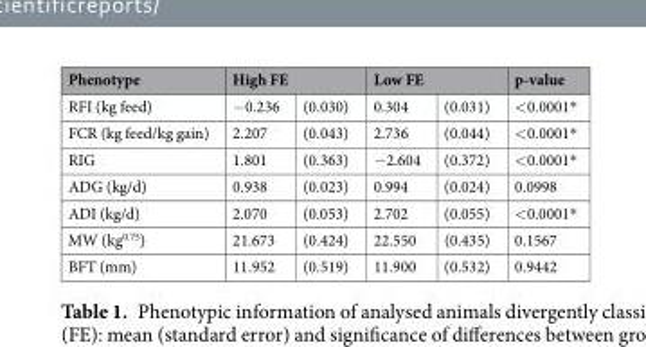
<table><thead><tr><td rowspan="2">Phenotype RFI (kg feed)</td><td colspan="2">High FE</td><td colspan="2">Low FE</td><td rowspan="2">p-value &lt;0.0001*</td></tr><tr><td>−0.236</td><td>(0.030)</td><td>0.304</td><td>(0.031)</td></tr></thead><tbody><tr><td>FCR (kg feed/kg gain)</td><td>2.207</td><td>(0.043)</td><td>2.736</td><td>(0.044)</td><td>&lt;0.0001*</td></tr><tr><td>RIG</td><td>1.801</td><td>(0.363)</td><td>−2.604</td><td>(0.372)</td><td>&lt;0.0001*</td></tr><tr><td>ADG (kg/d)</td><td>0.938</td><td>(0.023)</td><td>0.994</td><td>(0.024)</td><td>0.0998</td></tr><tr><td>ADI (kg/d)</td><td>2.070</td><td>(0.053)</td><td>2.702</td><td>(0.055)</td><td>&lt;0.0001*</td></tr><tr><td>MW (kg<sup>0.75</sup>)</td><td>21.673</td><td>(0.424)</td><td>22.550</td><td>(0.435)</td><td>0.1567</td></tr><tr><td>BFT (mm)</td><td>11.952</td><td>(0.519)</td><td>11.900</td><td>(0.532)</td><td>0.9442</td></tr></tbody></table>